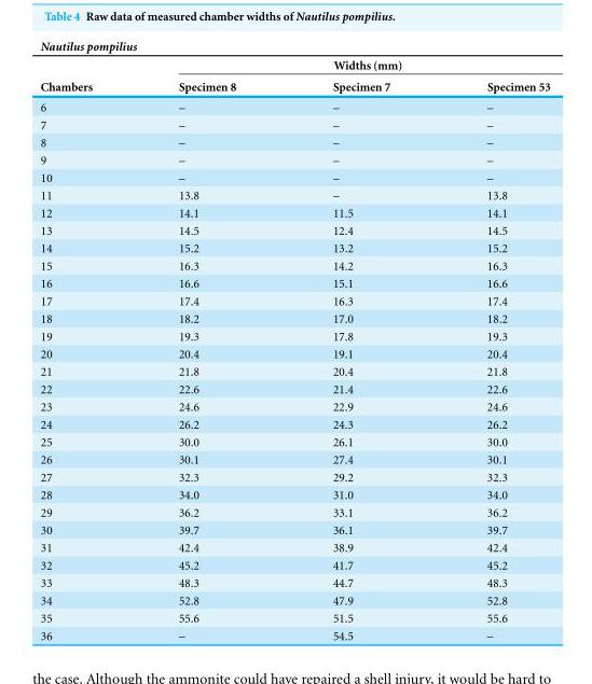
<table><thead><tr><td colspan="4">Nautilus pompilius</td></tr><tr><td rowspan="2">Chambers</td><td colspan="3">Widths (mm)</td></tr><tr><td>Specimen 8</td><td>Specimen 7</td><td>Specimen 53</td></tr></thead><tbody><tr><td>6</td><td>–</td><td>–</td><td>–</td></tr><tr><td>7</td><td>–</td><td>–</td><td>–</td></tr><tr><td>8</td><td>–</td><td>–</td><td>–</td></tr><tr><td>9</td><td>–</td><td>–</td><td>–</td></tr><tr><td>10</td><td>–</td><td>–</td><td>–</td></tr><tr><td>11</td><td>13.8</td><td>–</td><td>13.8</td></tr><tr><td>12</td><td>14.1</td><td>11.5</td><td>14.1</td></tr><tr><td>13</td><td>14.5</td><td>12.4</td><td>14.5</td></tr><tr><td>14</td><td>15.2</td><td>13.2</td><td>15.2</td></tr><tr><td>15</td><td>16.3</td><td>14.2</td><td>16.3</td></tr><tr><td>16</td><td>16.6</td><td>15.1</td><td>16.6</td></tr><tr><td>17</td><td>17.4</td><td>16.3</td><td>17.4</td></tr><tr><td>18</td><td>18.2</td><td>17.0</td><td>18.2</td></tr><tr><td>19</td><td>19.3</td><td>17.8</td><td>19.3</td></tr><tr><td>20</td><td>20.4</td><td>19.1</td><td>20.4</td></tr><tr><td>21</td><td>21.8</td><td>20.4</td><td>21.8</td></tr><tr><td>22</td><td>22.6</td><td>21.4</td><td>22.6</td></tr><tr><td>23</td><td>24.6</td><td>22.9</td><td>24.6</td></tr><tr><td>24</td><td>26.2</td><td>24.3</td><td>26.2</td></tr><tr><td>25</td><td>30.0</td><td>26.1</td><td>30.0</td></tr><tr><td>26</td><td>30.1</td><td>27.4</td><td>30.1</td></tr><tr><td>27</td><td>32.3</td><td>29.2</td><td>32.3</td></tr><tr><td>28</td><td>34.0</td><td>31.0</td><td>34.0</td></tr><tr><td>29</td><td>36.2</td><td>33.1</td><td>36.2</td></tr><tr><td>30</td><td>39.7</td><td>36.1</td><td>39.7</td></tr><tr><td>31</td><td>42.4</td><td>38.9</td><td>42.4</td></tr><tr><td>32</td><td>45.2</td><td>41.7</td><td>45.2</td></tr><tr><td>33</td><td>48.3</td><td>44.7</td><td>48.3</td></tr><tr><td>34</td><td>52.8</td><td>47.9</td><td>52.8</td></tr><tr><td>35</td><td>55.6</td><td>51.5</td><td>55.6</td></tr><tr><td>36</td><td>–</td><td>54.5</td><td>–</td></tr></tbody></table>